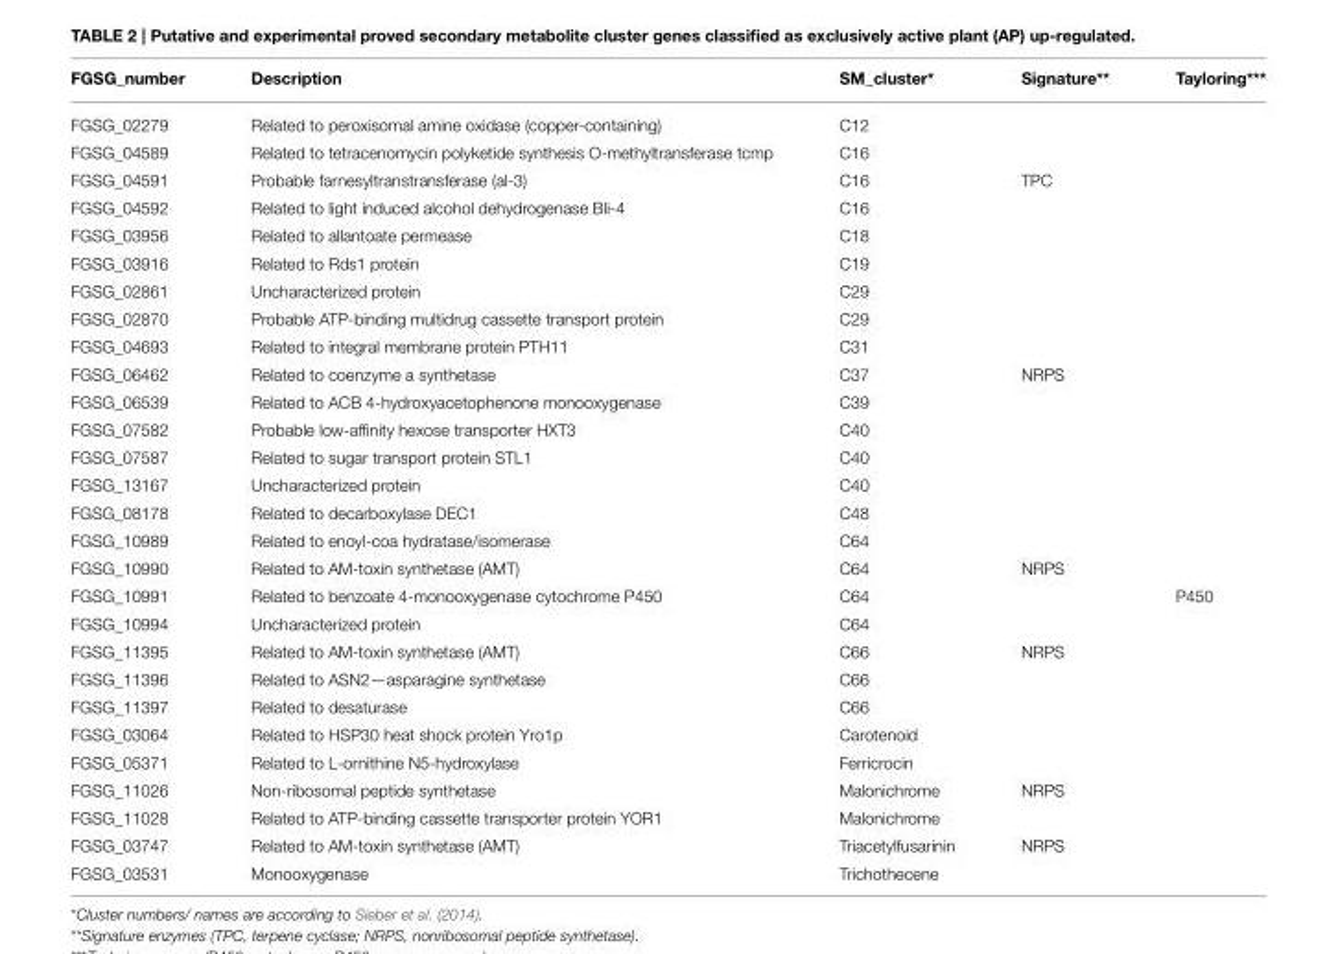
<table><thead><tr><td>FGSG_number</td><td>Description</td><td>SM_cluster*</td><td>Signature**</td><td>Tayloring***</td></tr></thead><tbody><tr><td>FGSG_02279</td><td>Related to peroxisomal amine oxidase (copper-containing)</td><td>C12</td><td></td><td></td></tr><tr><td>FGSG_04589</td><td>Related to tetracenomycin polyketide synthesis O-methyltransferase tcmp</td><td>C16</td><td></td><td></td></tr><tr><td>FGSG_04591</td><td>Probable farnesyltranstransferase (al-3)</td><td>C16</td><td>TPC</td><td></td></tr><tr><td>FGSG_04592</td><td>Related to light induced alcohol dehydrogenase Bli-4</td><td>C16</td><td></td><td></td></tr><tr><td>FGSG_03956</td><td>Related to allantoate permease</td><td>C18</td><td></td><td></td></tr><tr><td>FGSG_03916</td><td>Related to Rds1 protein</td><td>C19</td><td></td><td></td></tr><tr><td>FGSG_02861</td><td>Uncharacterized protein</td><td>C29</td><td></td><td></td></tr><tr><td>FGSG_02870</td><td>Probable ATP-binding multidrug cassette transport protein</td><td>C29</td><td></td><td></td></tr><tr><td>FGSG_04693</td><td>Related to integral membrane protein PTH11</td><td>C31</td><td></td><td></td></tr><tr><td>FGSG_06462</td><td>Related to coenzyme a synthetase</td><td>C37</td><td>NRPS</td><td></td></tr><tr><td>FGSG_06539</td><td>Related to ACB 4-hydroxyacetophenone monooxygenase</td><td>C39</td><td></td><td></td></tr><tr><td>FGSG_07582</td><td>Probable low-affinity hexose transporter HXT3</td><td>C40</td><td></td><td></td></tr><tr><td>FGSG_07587</td><td>Related to sugar transport protein STL1</td><td>C40</td><td></td><td></td></tr><tr><td>FGSG_13167</td><td>Uncharacterized protein</td><td>C40</td><td></td><td></td></tr><tr><td>FGSG_08178</td><td>Related to decarboxylase DEC1</td><td>C48</td><td></td><td></td></tr><tr><td>FGSG_10989</td><td>Related to enoyl-coa hydratase/isomerase</td><td>C64</td><td></td><td></td></tr><tr><td>FGSG_10990</td><td>Related to AM-toxin synthetase (AMT)</td><td>C64</td><td>NRPS</td><td></td></tr><tr><td>FGSG_10991</td><td>Related to benzoate 4-monooxygenase cytochrome P450</td><td>C64</td><td></td><td>P450</td></tr><tr><td>FGSG_10994</td><td>Uncharacterized protein</td><td>C64</td><td></td><td></td></tr><tr><td>FGSG_11395</td><td>Related to AM-toxin synthetase (AMT)</td><td>C66</td><td>NRPS</td><td></td></tr><tr><td>FGSG_11396</td><td>Related to ASN2—asparagine synthetase</td><td>C66</td><td></td><td></td></tr><tr><td>FGSG_11397</td><td>Related to desaturase</td><td>C66</td><td></td><td></td></tr><tr><td>FGSG_03064</td><td>Related to HSP30 heat shock protein Yro1p</td><td>Carotenoid</td><td></td><td></td></tr><tr><td>FGSG_05371</td><td>Related to L-ornithine N5-hydroxylase</td><td>Ferricrocin</td><td></td><td></td></tr><tr><td>FGSG_11026</td><td>Non-ribosomal peptide synthetase</td><td>Malonichrome</td><td>NRPS</td><td></td></tr><tr><td>FGSG_11028</td><td>Related to ATP-binding cassette transporter protein YOR1</td><td>Malonichrome</td><td></td><td></td></tr><tr><td>FGSG_03747</td><td>Related to AM-toxin synthetase (AMT)</td><td>Triacetylfusarinin</td><td>NRPS</td><td></td></tr><tr><td>FGSG_03531</td><td>Monooxygenase</td><td>Trichothecene</td><td></td><td></td></tr></tbody></table>